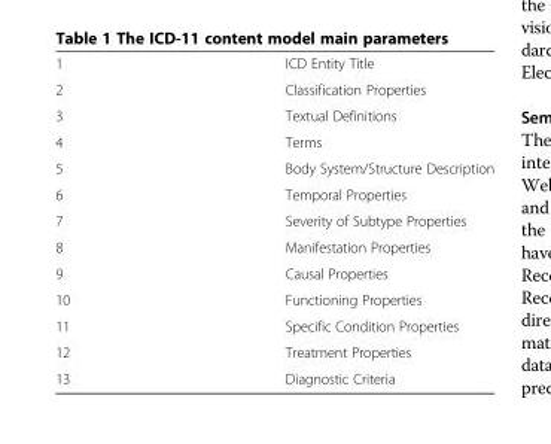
<table><tbody><tr><td>1</td><td>ICD Entity Title</td></tr><tr><td>2</td><td>Classification Properties</td></tr><tr><td>3</td><td>Textual Definitions</td></tr><tr><td>4</td><td>Terms</td></tr><tr><td>5</td><td>Body System/Structure Description</td></tr><tr><td>6</td><td>Temporal Properties</td></tr><tr><td>7</td><td>Severity of Subtype Properties</td></tr><tr><td>8</td><td>Manifestation Properties</td></tr><tr><td>9</td><td>Causal Properties</td></tr><tr><td>10</td><td>Functioning Properties</td></tr><tr><td>11</td><td>Specific Condition Properties</td></tr><tr><td>12</td><td>Treatment Properties</td></tr><tr><td>13</td><td>Diagnostic Criteria</td></tr></tbody></table>